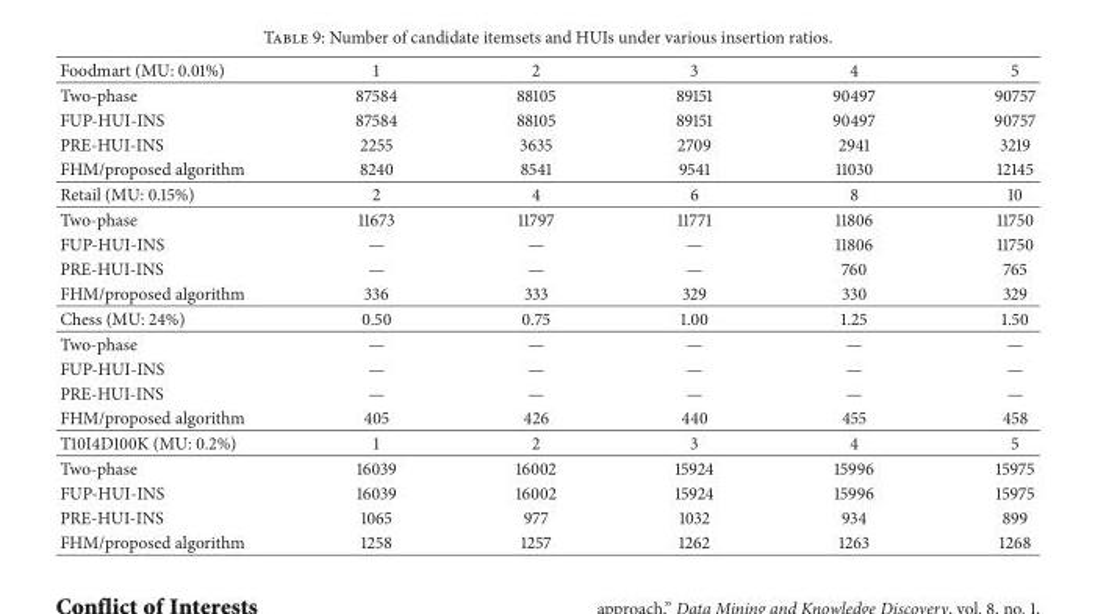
<table><thead><tr><td>Foodmart (MU: 0.01%)</td><td>1</td><td>2</td><td>3</td><td>4</td><td>5</td></tr></thead><tbody><tr><td>Two-phase</td><td>87584</td><td>88105</td><td>89151</td><td>90497</td><td>90757</td></tr><tr><td>FUP-HUI-INS</td><td>87584</td><td>88105</td><td>89151</td><td>90497</td><td>90757</td></tr><tr><td>PRE-HUI-INS</td><td>2255</td><td>3635</td><td>2709</td><td>2941</td><td>3219</td></tr><tr><td>FHM/proposed algorithm</td><td>8240</td><td>8541</td><td>9541</td><td>11030</td><td>12145</td></tr><tr><td>Retail (MU: 0.15%)</td><td>2</td><td>4</td><td>6</td><td>8</td><td>10</td></tr><tr><td>Two-phase</td><td>11673</td><td>11797</td><td>11771</td><td>11806</td><td>11750</td></tr><tr><td>FUP-HUI-INS</td><td>—</td><td>—</td><td>—</td><td>11806</td><td>11750</td></tr><tr><td>PRE-HUI-INS</td><td>—</td><td>—</td><td>—</td><td>760</td><td>765</td></tr><tr><td>FHM/proposed algorithm</td><td>336</td><td>333</td><td>329</td><td>330</td><td>329</td></tr><tr><td>Chess (MU: 24%)</td><td>0.50</td><td>0.75</td><td>1.00</td><td>1.25</td><td>1.50</td></tr><tr><td>Two-phase</td><td>—</td><td>—</td><td>—</td><td>—</td><td>—</td></tr><tr><td>FUP-HUI-INS</td><td>—</td><td>—</td><td>—</td><td>—</td><td>—</td></tr><tr><td>PRE-HUI-INS</td><td>—</td><td>—</td><td>—</td><td>—</td><td>—</td></tr><tr><td>FHM/proposed algorithm</td><td>405</td><td>426</td><td>440</td><td>455</td><td>458</td></tr><tr><td>T10I4D100K (MU: 0.2%)</td><td>1</td><td>2</td><td>3</td><td>4</td><td>5</td></tr><tr><td>Two-phase</td><td>16039</td><td>16002</td><td>15924</td><td>15996</td><td>15975</td></tr><tr><td>FUP-HUI-INS</td><td>16039</td><td>16002</td><td>15924</td><td>15996</td><td>15975</td></tr><tr><td>PRE-HUI-INS</td><td>1065</td><td>977</td><td>1032</td><td>934</td><td>899</td></tr><tr><td>FHM/proposed algorithm</td><td>1258</td><td>1257</td><td>1262</td><td>1263</td><td>1268</td></tr></tbody></table>